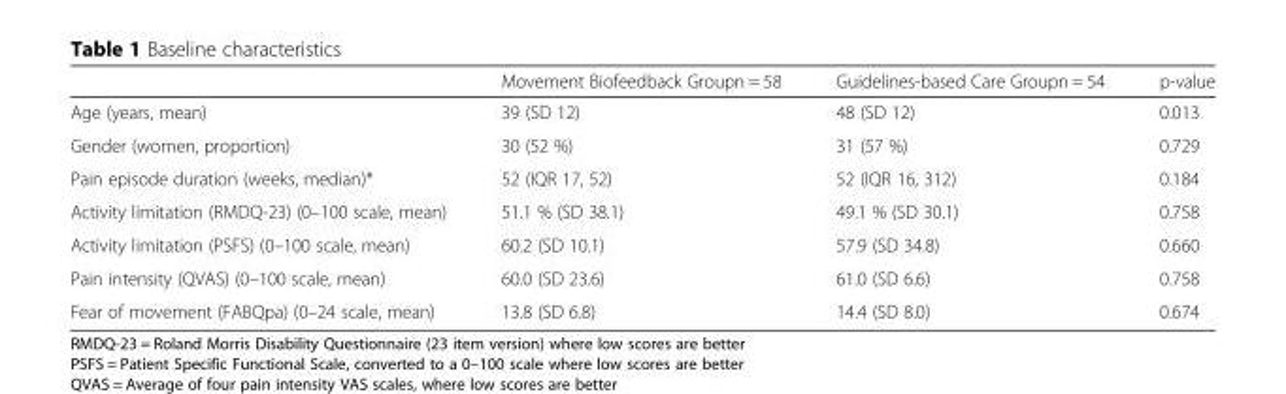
<table><thead><tr><td></td><td>Movement Biofeedback Groupn = 58</td><td>Guidelines-based Care Groupn = 54</td><td>p-value</td></tr></thead><tbody><tr><td>Age (years, mean)</td><td>39 (SD 12)</td><td>48 (SD 12)</td><td>0.013</td></tr><tr><td>Gender (women, proportion)</td><td>30 (52 %)</td><td>31 (57 %)</td><td>0.729</td></tr><tr><td>Pain episode duration (weeks, median)*</td><td>52 (IQR 17, 52)</td><td>52 (IQR 16, 312)</td><td>0.184</td></tr><tr><td>Activity limitation (RMDQ-23) (0–100 scale, mean)</td><td>51.1 % (SD 38.1)</td><td>49.1 % (SD 30.1)</td><td>0.758</td></tr><tr><td>Activity limitation (PSFS) (0–100 scale, mean)</td><td>60.2 (SD 10.1)</td><td>57.9 (SD 34.8)</td><td>0.660</td></tr><tr><td>Pain intensity (QVAS) (0–100 scale, mean)</td><td>60.0 (SD 23.6)</td><td>61.0 (SD 6.6)</td><td>0.758</td></tr><tr><td>Fear of movement (FABQpa) (0–24 scale, mean)</td><td>13.8 (SD 6.8)</td><td>14.4 (SD 8.0)</td><td>0.674</td></tr></tbody></table>